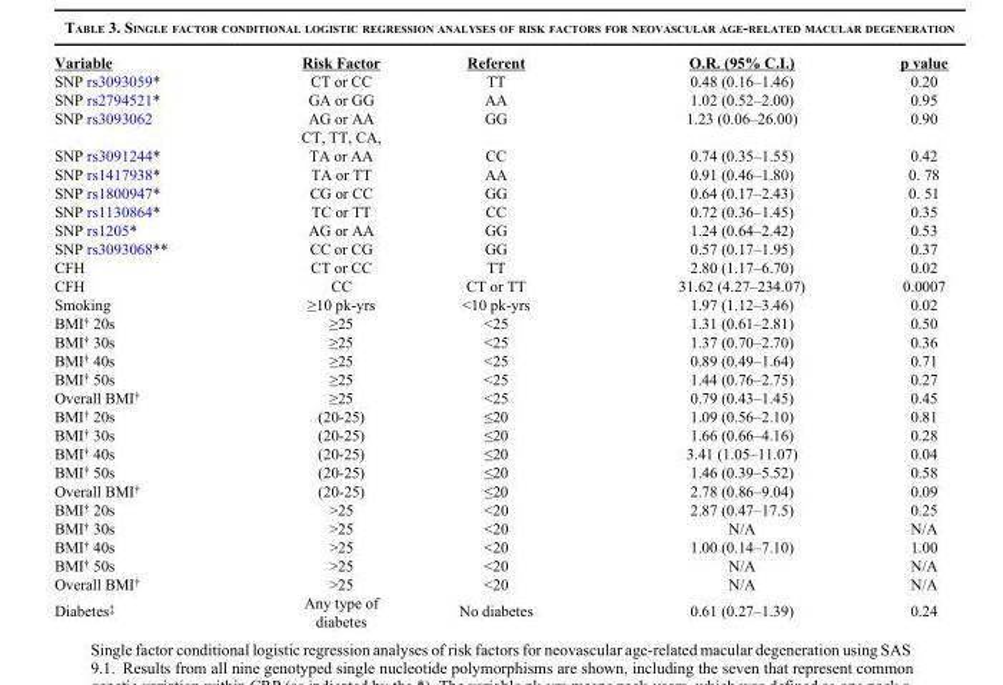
<table><thead><tr><td>Variable</td><td>Risk Factor</td><td>Referent</td><td>O.R. (95% C.I.)</td><td>p value</td></tr></thead><tbody><tr><td>SNP rs3093059*</td><td>CT or CC</td><td>TT</td><td>0.48 (0.16–1.46)</td><td>0.20</td></tr><tr><td>SNP rs2794521*</td><td>GA or GG</td><td>AA</td><td>1.02 (0.52–2.00)</td><td>0.95</td></tr><tr><td>SNP rs3093062</td><td>AG or AA</td><td>GG</td><td>1.23 (0.06–26.00)</td><td>0.90</td></tr><tr><td>SNP rs3091244*</td><td>CT, TT, CA, TA or AA</td><td>CC</td><td>0.74 (0.35–1.55)</td><td>0.42</td></tr><tr><td>SNP rs1417938*</td><td>TA or TT</td><td>AA</td><td>0.91 (0.46–1.80)</td><td>0. 78</td></tr><tr><td>SNP rs1800947*</td><td>CG or CC</td><td>GG</td><td>0.64 (0.17–2.43)</td><td>0. 51</td></tr><tr><td>SNP rs1130864*</td><td>TC or TT</td><td>CC</td><td>0.72 (0.36–1.45)</td><td>0.35</td></tr><tr><td>SNP rs1205*</td><td>AG or AA</td><td>GG</td><td>1.24 (0.64–2.42)</td><td>0.53</td></tr><tr><td>SNP rs3093068**</td><td>CC or CG</td><td>GG</td><td>0.57 (0.17–1.95)</td><td>0.37</td></tr><tr><td>CFH</td><td>CT or CC</td><td>TT</td><td>2.80 (1.17–6.70)</td><td>0.02</td></tr><tr><td>CFH</td><td>CC</td><td>CT or TT</td><td>31.62 (4.27–234.07)</td><td>0.0007</td></tr><tr><td>Smoking</td><td>≥10 pk-yrs</td><td>&lt;10 pk-yrs</td><td>1.97 (1.12–3.46)</td><td>0.02</td></tr><tr><td>BMI<sup>†</sup> 20s</td><td>≥25</td><td>&lt;25</td><td>1.31 (0.61–2.81)</td><td>0.50</td></tr><tr><td>BMI<sup>†</sup> 30s</td><td>≥25</td><td>&lt;25</td><td>1.37 (0.70–2.70)</td><td>0.36</td></tr><tr><td>BMI<sup>†</sup> 40s</td><td>≥25</td><td>&lt;25</td><td>0.89 (0.49–1.64)</td><td>0.71</td></tr><tr><td>BMI<sup>†</sup> 50s</td><td>≥25</td><td>&lt;25</td><td>1.44 (0.76–2.75)</td><td>0.27</td></tr><tr><td>Overall BMI<sup>†</sup></td><td>≥25</td><td>&lt;25</td><td>0.79 (0.43–1.45)</td><td>0.45</td></tr><tr><td>BMI<sup>†</sup> 20s</td><td>(20-25)</td><td>≤20</td><td>1.09 (0.56–2.10)</td><td>0.81</td></tr><tr><td>BMI<sup>†</sup> 30s</td><td>(20-25)</td><td>≤20</td><td>1.66 (0.66–4.16)</td><td>0.28</td></tr><tr><td>BMI<sup>†</sup> 40s</td><td>(20-25)</td><td>≤20</td><td>3.41 (1.05–11.07)</td><td>0.04</td></tr><tr><td>BMI<sup>†</sup> 50s</td><td>(20-25)</td><td>≤20</td><td>1.46 (0.39–5.52)</td><td>0.58</td></tr><tr><td>Overall BMI<sup>†</sup></td><td>(20-25)</td><td>≤20</td><td>2.78 (0.86–9.04)</td><td>0.09</td></tr><tr><td>BMI<sup>†</sup> 20s</td><td>&gt;25</td><td>&lt;20</td><td>2.87 (0.47–17.5)</td><td>0.25</td></tr><tr><td>BMI<sup>†</sup> 30s</td><td>&gt;25</td><td>&lt;20</td><td>N/A</td><td>N/A</td></tr><tr><td>BMI<sup>†</sup> 40s</td><td>&gt;25</td><td>&lt;20</td><td>1.00 (0.14–7.10)</td><td>1.00</td></tr><tr><td>BMI<sup>†</sup> 50s</td><td>&gt;25</td><td>&lt;20</td><td>N/A</td><td>N/A</td></tr><tr><td>Overall BMI<sup>†</sup></td><td>&gt;25</td><td>&lt;20</td><td>N/A</td><td>N/A</td></tr><tr><td>Diabetes<sup>‡</sup></td><td>Any type of diabetes</td><td>No diabetes</td><td>0.61 (0.27–1.39)</td><td>0.24</td></tr></tbody></table>